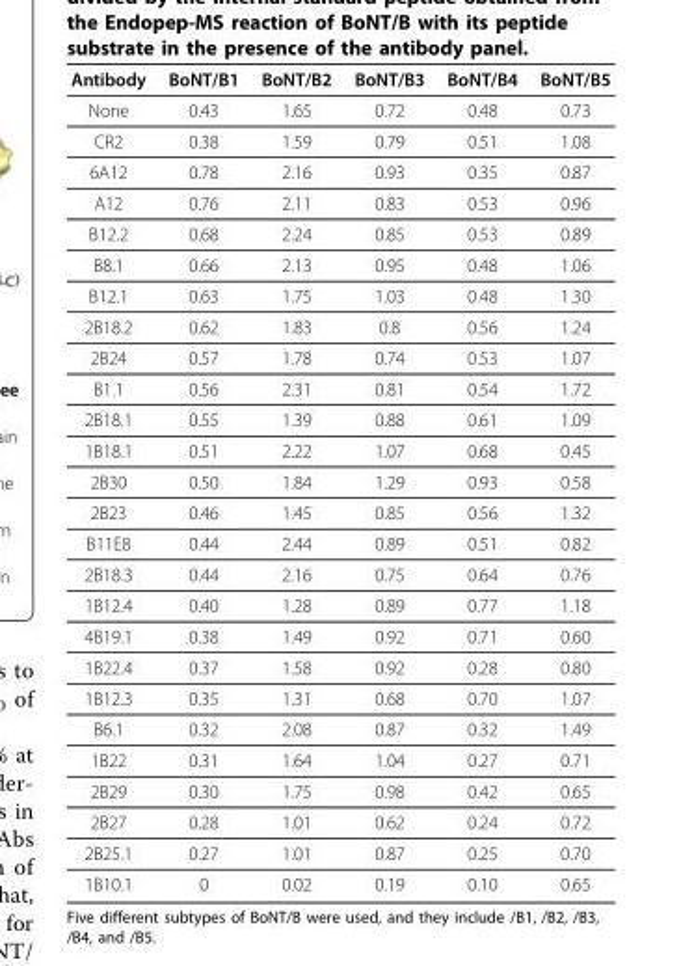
<table><thead><tr><td>Antibody</td><td>BoNT/B1</td><td>BoNT/B2</td><td>BoNT/B3</td><td>BoNT/B4</td><td>BoNT/B5</td></tr></thead><tbody><tr><td>None</td><td>0.43</td><td>1.65</td><td>0.72</td><td>0.48</td><td>0.73</td></tr><tr><td>CR2</td><td>0.38</td><td>1.59</td><td>0.79</td><td>0.51</td><td>1.08</td></tr><tr><td>6A12</td><td>0.78</td><td>2.16</td><td>0.93</td><td>0.35</td><td>0.87</td></tr><tr><td>A12</td><td>0.76</td><td>2.11</td><td>0.83</td><td>0.53</td><td>0.96</td></tr><tr><td>B12.2</td><td>0.68</td><td>2.24</td><td>0.85</td><td>0.53</td><td>0.89</td></tr><tr><td>B8.1</td><td>0.66</td><td>2.13</td><td>0.95</td><td>0.48</td><td>1.06</td></tr><tr><td>B12.1</td><td>0.63</td><td>1.75</td><td>1.03</td><td>0.48</td><td>1.30</td></tr><tr><td>2B18.2</td><td>0.62</td><td>1.83</td><td>0.8</td><td>0.56</td><td>1.24</td></tr><tr><td>2B24</td><td>0.57</td><td>1.78</td><td>0.74</td><td>0.53</td><td>1.07</td></tr><tr><td>B1.1</td><td>0.56</td><td>2.31</td><td>0.81</td><td>0.54</td><td>1.72</td></tr><tr><td>2B18.1</td><td>0.55</td><td>1.39</td><td>0.88</td><td>0.61</td><td>1.09</td></tr><tr><td>1B18.1</td><td>0.51</td><td>2.22</td><td>1.07</td><td>0.68</td><td>0.45</td></tr><tr><td>2B30</td><td>0.50</td><td>1.84</td><td>1.29</td><td>0.93</td><td>0.58</td></tr><tr><td>2B23</td><td>0.46</td><td>1.45</td><td>0.85</td><td>0.56</td><td>1.32</td></tr><tr><td>B11E8</td><td>0.44</td><td>2.44</td><td>0.89</td><td>0.51</td><td>0.82</td></tr><tr><td>2B18.3</td><td>0.44</td><td>2.16</td><td>0.75</td><td>0.64</td><td>0.76</td></tr><tr><td>1B12.4</td><td>0.40</td><td>1.28</td><td>0.89</td><td>0.77</td><td>1.18</td></tr><tr><td>4B19.1</td><td>0.38</td><td>1.49</td><td>0.92</td><td>0.71</td><td>0.60</td></tr><tr><td>1B22.4</td><td>0.37</td><td>1.58</td><td>0.92</td><td>0.28</td><td>0.80</td></tr><tr><td>1B12.3</td><td>0.35</td><td>1.31</td><td>0.68</td><td>0.70</td><td>1.07</td></tr><tr><td>B6.1</td><td>0.32</td><td>2.08</td><td>0.87</td><td>0.32</td><td>1.49</td></tr><tr><td>1B22</td><td>0.31</td><td>1.64</td><td>1.04</td><td>0.27</td><td>0.71</td></tr><tr><td>2B29</td><td>0.30</td><td>1.75</td><td>0.98</td><td>0.42</td><td>0.65</td></tr><tr><td>2B27</td><td>0.28</td><td>1.01</td><td>0.62</td><td>0.24</td><td>0.72</td></tr><tr><td>2B25.1</td><td>0.27</td><td>1.01</td><td>0.87</td><td>0.25</td><td>0.70</td></tr><tr><td>1B10.1</td><td>0</td><td>0.02</td><td>0.19</td><td>0.10</td><td>0.65</td></tr></tbody></table>